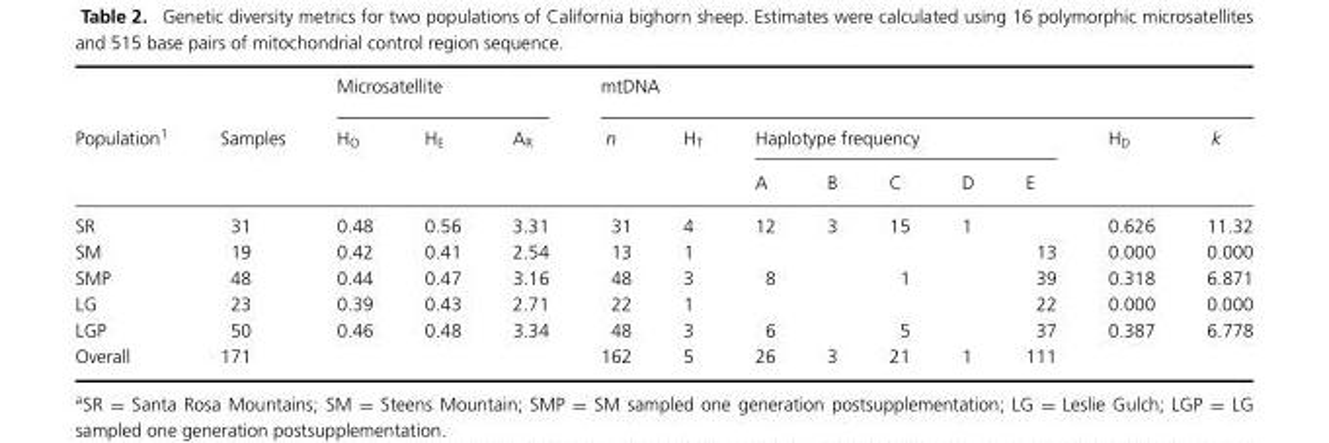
<table><thead><tr><td rowspan="3">Population<sup>1</sup></td><td rowspan="3">Samples</td><td colspan="3">Microsatellite</td><td colspan="9">mtDNA</td></tr><tr><td rowspan="2">H<sub>O</sub></td><td rowspan="2">H<sub>E</sub></td><td rowspan="2">A<sub>R</sub></td><td rowspan="2">n</td><td rowspan="2">H<sub>T</sub></td><td colspan="5">Haplotype frequency</td><td rowspan="2">H<sub>D</sub></td><td rowspan="2">k</td></tr><tr><td>A</td><td>B</td><td>C</td><td>D</td><td>E</td></tr></thead><tbody><tr><td>SR</td><td>31</td><td>0.48</td><td>0.56</td><td>3.31</td><td>31</td><td>4</td><td>12</td><td>3</td><td>15</td><td>1</td><td></td><td>0.626</td><td>11.32</td></tr><tr><td>SM</td><td>19</td><td>0.42</td><td>0.41</td><td>2.54</td><td>13</td><td>1</td><td></td><td></td><td></td><td></td><td>13</td><td>0.000</td><td>0.000</td></tr><tr><td>SMP</td><td>48</td><td>0.44</td><td>0.47</td><td>3.16</td><td>48</td><td>3</td><td>8</td><td></td><td>1</td><td></td><td>39</td><td>0.318</td><td>6.871</td></tr><tr><td>LG</td><td>23</td><td>0.39</td><td>0.43</td><td>2.71</td><td>22</td><td>1</td><td></td><td></td><td></td><td></td><td>22</td><td>0.000</td><td>0.000</td></tr><tr><td>LGP</td><td>50</td><td>0.46</td><td>0.48</td><td>3.34</td><td>48</td><td>3</td><td>6</td><td></td><td>5</td><td></td><td>37</td><td>0.387</td><td>6.778</td></tr><tr><td>Overall</td><td>171</td><td></td><td></td><td></td><td>162</td><td>5</td><td>26</td><td>3</td><td>21</td><td>1</td><td>111</td><td></td><td></td></tr></tbody></table>